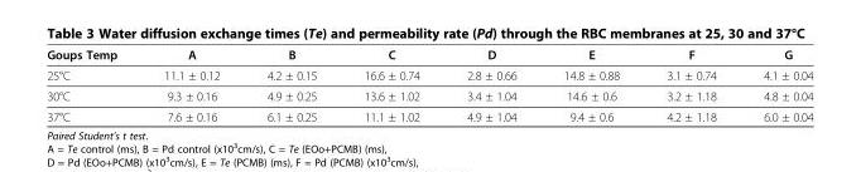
<table><thead><tr><td>Goups Temp</td><td>A</td><td>B</td><td>C</td><td>D</td><td>E</td><td>F</td><td>G</td></tr></thead><tbody><tr><td>25°C</td><td>11.1 ± 0.12</td><td>4.2 ± 0.15</td><td>16.6 ± 0.74</td><td>2.8 ± 0.66</td><td>14.8 ± 0.88</td><td>3.1 ± 0.74</td><td>4.1 ± 0.04</td></tr><tr><td>30°C</td><td>9.3 ± 0.16</td><td>4.9 ± 0.25</td><td>13.6 ± 1.02</td><td>3.4 ± 1.04</td><td>14.6 ± 0.6</td><td>3.2 ± 1.18</td><td>4.8 ± 0.04</td></tr><tr><td>37°C</td><td>7.6 ± 0.16</td><td>6.1 ± 0.25</td><td>11.1 ± 1.02</td><td>4.9 ± 1.04</td><td>9.4 ± 0.6</td><td>4.2 ± 1.18</td><td>6.0 ± 0.04</td></tr></tbody></table>